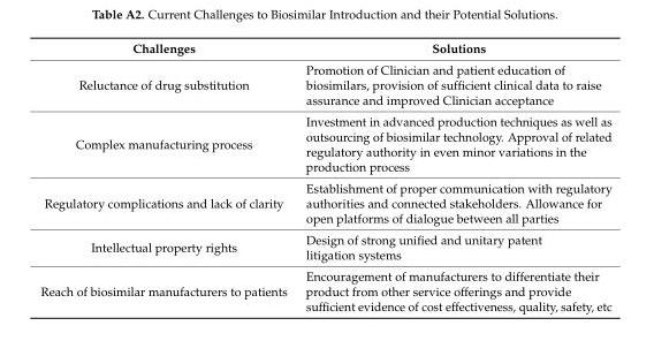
<table><thead><tr><td>Challenges</td><td>Solutions</td></tr></thead><tbody><tr><td>Reluctance of drug substitution</td><td>Promotion of Clinician and patient education of biosimilars, provision of sufficient clinical data to raise assurance and improved Clinician acceptance</td></tr><tr><td>Complex manufacturing process</td><td>Investment in advanced production techniques as well as outsourcing of biosimilar technology. Approval of related regulatory authority in even minor variations in the production process</td></tr><tr><td>Regulatory complications and lack of clarity</td><td>Establishment of proper communication with regulatory authorities and connected stakeholders. Allowance for open platforms of dialogue between all parties</td></tr><tr><td>Intellectual property rights</td><td>Design of strong unified and unitary patent litigation systems</td></tr><tr><td>Reach of biosimilar manufacturers to patients</td><td>Encouragement of manufacturers to differentiate their product from other service offerings and provide sufficient evidence of cost effectiveness, quality, safety, etc</td></tr></tbody></table>